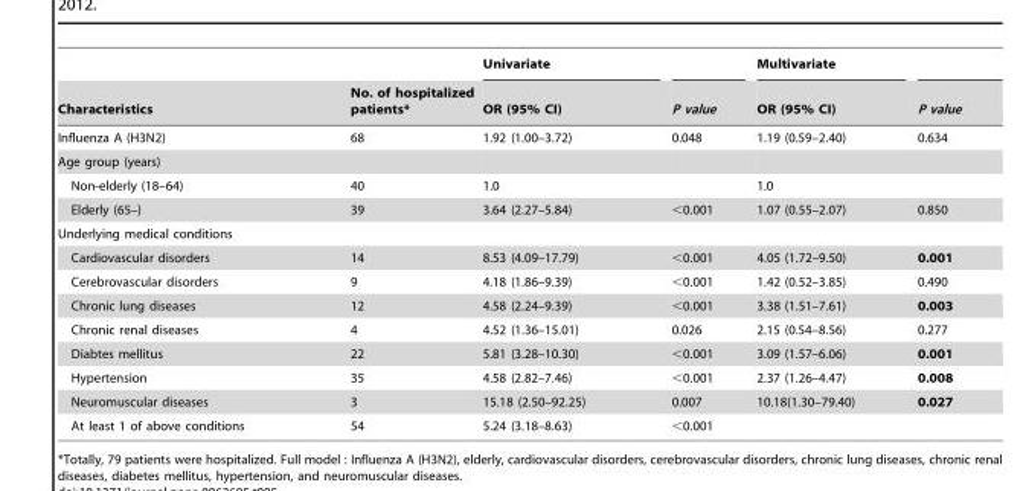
<table><thead><tr><td rowspan="2">Characteristics</td><td rowspan="2">No. of hospitalized patients*</td><td rowspan="2">Univariate OR (95% CI)</td><td rowspan="2">P value</td><td rowspan="2">Multivariate OR (95% CI)</td><td rowspan="2">P value</td></tr><tr></tr></thead><tbody><tr><td>Influenza A (H3N2)</td><td>68</td><td>1.92 (1.00–3.72)</td><td>0.048</td><td>1.19 (0.59–2.40)</td><td>0.634</td></tr><tr><td colspan="6">Age group (years)</td></tr><tr><td>Non-elderly (18–64)</td><td>40</td><td>1.0</td><td></td><td>1.0</td><td></td></tr><tr><td>Elderly (65–)</td><td>39</td><td>3.64 (2.27–5.84)</td><td>&lt;0.001</td><td>1.07 (0.55–2.07)</td><td>0.850</td></tr><tr><td colspan="6">Underlying medical conditions</td></tr><tr><td>Cardiovascular disorders</td><td>14</td><td>8.53 (4.09–17.79)</td><td>&lt;0.001</td><td>4.05 (1.72–9.50)</td><td>0.001</td></tr><tr><td>Cerebrovascular disorders</td><td>9</td><td>4.18 (1.86–9.39)</td><td>&lt;0.001</td><td>1.42 (0.52–3.85)</td><td>0.490</td></tr><tr><td>Chronic lung diseases</td><td>12</td><td>4.58 (2.24–9.39)</td><td>&lt;0.001</td><td>3.38 (1.51–7.61)</td><td>0.003</td></tr><tr><td>Chronic renal diseases</td><td>4</td><td>4.52 (1.36–15.01)</td><td>0.026</td><td>2.15 (0.54–8.56)</td><td>0.277</td></tr><tr><td>Diabtes mellitus</td><td>22</td><td>5.81 (3.28–10.30)</td><td>&lt;0.001</td><td>3.09 (1.57–6.06)</td><td>0.001</td></tr><tr><td>Hypertension</td><td>35</td><td>4.58 (2.82–7.46)</td><td>&lt;0.001</td><td>2.37 (1.26–4.47)</td><td>0.008</td></tr><tr><td>Neuromuscular diseases</td><td>3</td><td>15.18 (2.50–92.25)</td><td>0.007</td><td>10.18(1.30–79.40)</td><td>0.027</td></tr><tr><td>At least 1 of above conditions</td><td>54</td><td>5.24 (3.18–8.63)</td><td>&lt;0.001</td><td></td><td></td></tr></tbody></table>